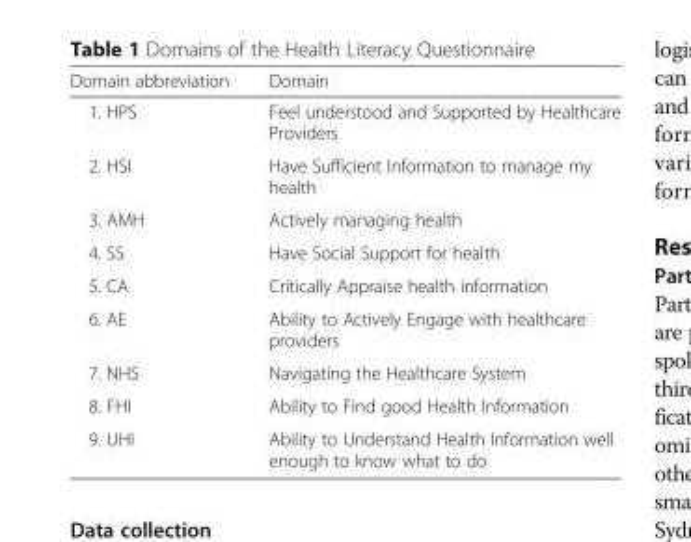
<table><thead><tr><td>Domain abbreviation</td><td>Domain</td></tr></thead><tbody><tr><td>1. HPS</td><td>Feel understood and Supported by Healthcare Providers</td></tr><tr><td>2. HSI</td><td>Have Sufficient Information to manage my health</td></tr><tr><td>3. AMH</td><td>Actively managing health</td></tr><tr><td>4. SS</td><td>Have Social Support for health</td></tr><tr><td>5. CA</td><td>Critically Appraise health information</td></tr><tr><td>6. AE</td><td>Ability to Actively Engage with healthcare providers</td></tr><tr><td>7. NHS</td><td>Navigating the Healthcare System</td></tr><tr><td>8. FHI</td><td>Ability to Find good Health Information</td></tr><tr><td>9. UHI</td><td>Ability to Understand Health Information well enough to know what to do</td></tr></tbody></table>